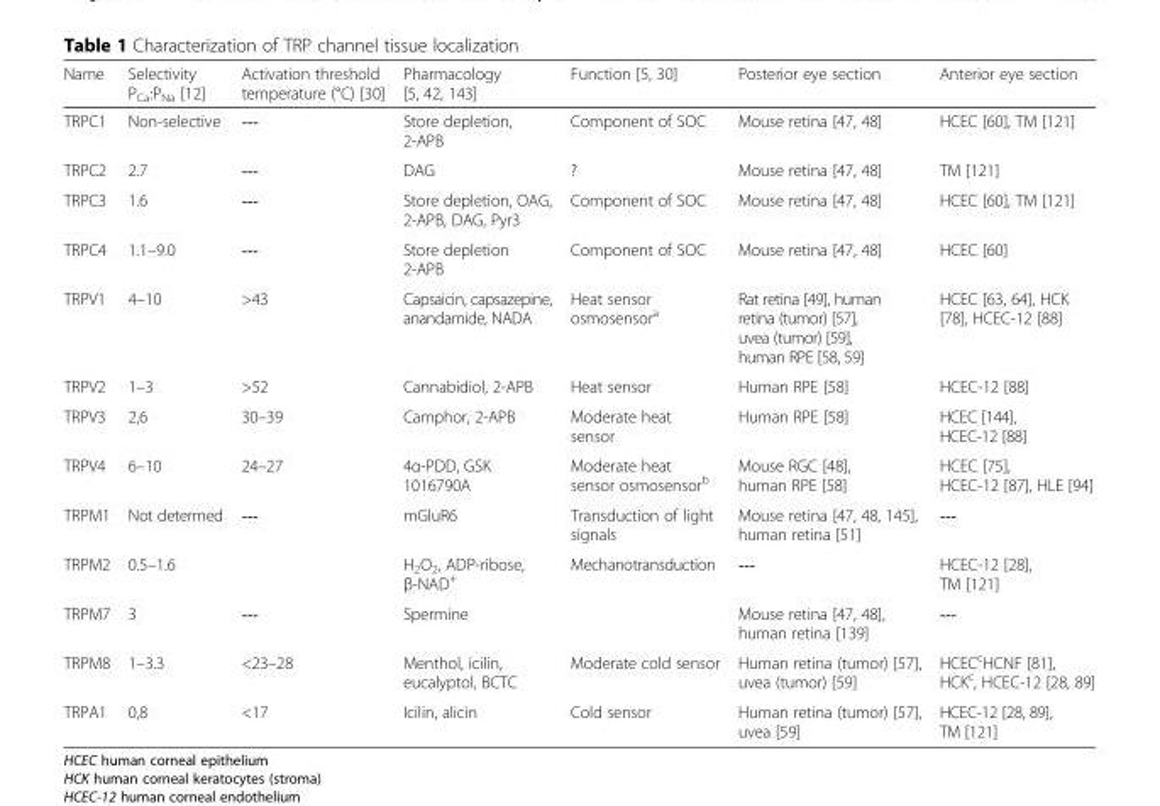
<table><thead><tr><td>Name</td><td>Selectivity P<sub>Ca</sub>:P<sub>Na</sub> [12]</td><td>Activation threshold temperature (°C) [30]</td><td>Pharmacology [5, 42, 143]</td><td>Function [5, 30]</td><td>Posterior eye section</td><td>Anterior eye section</td></tr></thead><tbody><tr><td>TRPC1</td><td>Non-selective</td><td>---</td><td>Store depletion, 2-APB</td><td>Component of SOC</td><td>Mouse retina [47, 48]</td><td>HCEC [60], TM [121]</td></tr><tr><td>TRPC2</td><td>2.7</td><td>---</td><td>DAG</td><td>?</td><td>Mouse retina [47, 48]</td><td>TM [121]</td></tr><tr><td>TRPC3</td><td>1.6</td><td>---</td><td>Store depletion, OAG, 2-APB, DAG, Pyr3</td><td>Component of SOC</td><td>Mouse retina [47, 48]</td><td>HCEC [60], TM [121]</td></tr><tr><td>TRPC4</td><td>1.1–9.0</td><td>---</td><td>Store depletion 2-APB</td><td>Component of SOC</td><td>Mouse retina [47, 48]</td><td>HCEC [60]</td></tr><tr><td>TRPV1</td><td>4–10</td><td>&gt;43</td><td>Capsaicin, capsazepine, anandamide, NADA</td><td>Heat sensor osmosensor<sup>a</sup></td><td>Rat retina [49], human retina (tumor) [57], uvea (tumor) [59], human RPE [58, 59]</td><td>HCEC [63, 64], HCK [78], HCEC-12 [88]</td></tr><tr><td>TRPV2</td><td>1–3</td><td>&gt;52</td><td>Cannabidiol, 2-APB</td><td>Heat sensor</td><td>Human RPE [58]</td><td>HCEC-12 [88]</td></tr><tr><td>TRPV3</td><td>2,6</td><td>30–39</td><td>Camphor, 2-APB</td><td>Moderate heat sensor</td><td>Human RPE [58]</td><td>HCEC [144], HCEC-12 [88]</td></tr><tr><td>TRPV4</td><td>6–10</td><td>24–27</td><td>4α-PDD, GSK 1016790A</td><td>Moderate heat sensor osmosensor<sup>b</sup></td><td>Mouse RGC [48], human RPE [58]</td><td>HCEC [75], HCEC-12 [87], HLE [94]</td></tr><tr><td>TRPM1</td><td>Not determed</td><td>---</td><td>mGluR6</td><td>Transduction of light signals</td><td>Mouse retina [47, 48, 145], human retina [51]</td><td>---</td></tr><tr><td>TRPM2</td><td>0.5–1.6</td><td></td><td>H<sub>2</sub>O<sub>2</sub>, ADP-ribose, β-NAD<sup>+</sup></td><td>Mechanotransduction</td><td>---</td><td>HCEC-12 [28], TM [121]</td></tr><tr><td>TRPM7</td><td>3</td><td>---</td><td>Spermine</td><td></td><td>Mouse retina [47, 48], human retina [139]</td><td>---</td></tr><tr><td>TRPM8</td><td>1–3.3</td><td>&lt;23–28</td><td>Menthol, icilin, eucalyptol, BCTC</td><td>Moderate cold sensor</td><td>Human retina (tumor) [57], uvea (tumor) [59]</td><td>HCEC<sup>c</sup>HCNF [81], HCK<sup>c</sup>, HCEC-12 [28, 89]</td></tr><tr><td>TRPA1</td><td>0,8</td><td>&lt;17</td><td>Icilin, alicin</td><td>Cold sensor</td><td>Human retina (tumor) [57], uvea [59]</td><td>HCEC-12 [28, 89], TM [121]</td></tr></tbody></table>